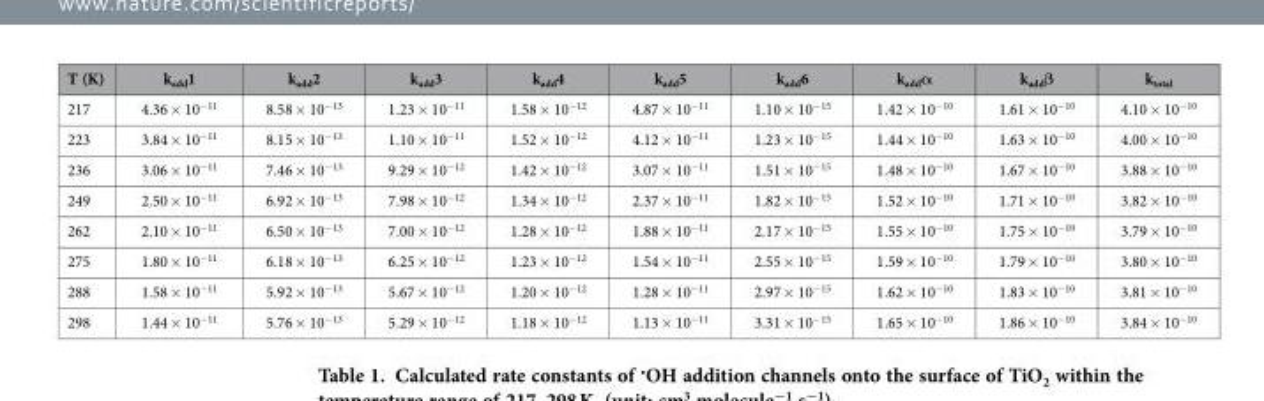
<table><thead><tr><td>T (K)</td><td>k<sub>add</sub>1</td><td>k<sub>add</sub>2</td><td>k<sub>add</sub>3</td><td>k<sub>add</sub>4</td><td>k<sub>add</sub>5</td><td>k<sub>add</sub>6</td><td>k<sub>add</sub>α</td><td>k<sub>add</sub>β</td><td>k<sub>total</sub></td></tr></thead><tbody><tr><td>217</td><td>4.36 × 10<sup>−11</sup></td><td>8.58 × 10<sup>−13</sup></td><td>1.23 × 10<sup>−11</sup></td><td>1.58 × 10<sup>−12</sup></td><td>4.87 × 10<sup>−11</sup></td><td>1.10 × 10<sup>−15</sup></td><td>1.42 × 10<sup>−10</sup></td><td>1.61 × 10<sup>−10</sup></td><td>4.10 × 10<sup>−10</sup></td></tr><tr><td>223</td><td>3.84 × 10<sup>−11</sup></td><td>8.15 × 10<sup>−13</sup></td><td>1.10 × 10<sup>−11</sup></td><td>1.52 × 10<sup>−12</sup></td><td>4.12 × 10<sup>−11</sup></td><td>1.23 × 10<sup>−15</sup></td><td>1.44 × 10<sup>−10</sup></td><td>1.63 × 10<sup>−10</sup></td><td>4.00 × 10<sup>−10</sup></td></tr><tr><td>236</td><td>3.06 × 10<sup>−11</sup></td><td>7.46 × 10<sup>−13</sup></td><td>9.29 × 10<sup>−12</sup></td><td>1.42 × 10<sup>−12</sup></td><td>3.07 × 10<sup>−11</sup></td><td>1.51 × 10<sup>−15</sup></td><td>1.48 × 10<sup>−10</sup></td><td>1.67 × 10<sup>−10</sup></td><td>3.88 × 10<sup>−10</sup></td></tr><tr><td>249</td><td>2.50 × 10<sup>−11</sup></td><td>6.92 × 10<sup>−13</sup></td><td>7.98 × 10<sup>−12</sup></td><td>1.34 × 10<sup>−12</sup></td><td>2.37 × 10<sup>−11</sup></td><td>1.82 × 10<sup>−15</sup></td><td>1.52 × 10<sup>−10</sup></td><td>1.71 × 10<sup>−10</sup></td><td>3.82 × 10<sup>−10</sup></td></tr><tr><td>262</td><td>2.10 × 10<sup>−11</sup></td><td>6.50 × 10<sup>−13</sup></td><td>7.00 × 10<sup>−12</sup></td><td>1.28 × 10<sup>−12</sup></td><td>1.88 × 10<sup>−11</sup></td><td>2.17 × 10<sup>−15</sup></td><td>1.55 × 10<sup>−10</sup></td><td>1.75 × 10<sup>−10</sup></td><td>3.79 × 10<sup>−10</sup></td></tr><tr><td>275</td><td>1.80 × 10<sup>−11</sup></td><td>6.18 × 10<sup>−13</sup></td><td>6.25 × 10<sup>−12</sup></td><td>1.23 × 10<sup>−12</sup></td><td>1.54 × 10<sup>−11</sup></td><td>2.55 × 10<sup>−15</sup></td><td>1.59 × 10<sup>−10</sup></td><td>1.79 × 10<sup>−10</sup></td><td>3.80 × 10<sup>−10</sup></td></tr><tr><td>288</td><td>1.58 × 10<sup>−11</sup></td><td>5.92 × 10<sup>−13</sup></td><td>5.67 × 10<sup>−12</sup></td><td>1.20 × 10<sup>−12</sup></td><td>1.28 × 10<sup>−11</sup></td><td>2.97 × 10<sup>−15</sup></td><td>1.62 × 10<sup>−10</sup></td><td>1.83 × 10<sup>−10</sup></td><td>3.81 × 10<sup>−10</sup></td></tr><tr><td>298</td><td>1.44 × 10<sup>−11</sup></td><td>5.76 × 10<sup>−13</sup></td><td>5.29 × 10<sup>−12</sup></td><td>1.18 × 10<sup>−12</sup></td><td>1.13 × 10<sup>−11</sup></td><td>3.31 × 10<sup>−15</sup></td><td>1.65 × 10<sup>−10</sup></td><td>1.86 × 10<sup>−10</sup></td><td>3.84 × 10<sup>−10</sup></td></tr></tbody></table>